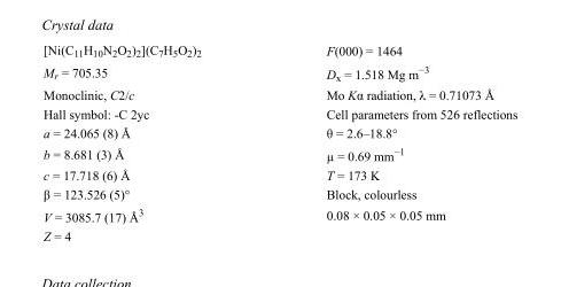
<table><tbody><tr><td>[Ni(C<sub>11</sub>H<sub>10</sub>N<sub>2</sub>O<sub>2</sub>)<sub>2</sub>](C<sub>7</sub>H<sub>5</sub>O<sub>2</sub>)<sub>2</sub></td><td>F(000) = 1464</td></tr><tr><td>M<sub>r</sub> = 705.35</td><td>D<sub>x</sub> = 1.518 Mg m<sup>−3</sup></td></tr><tr><td>Monoclinic, C2/c</td><td>Mo Kα radiation, λ = 0.71073 Å</td></tr><tr><td>Hall symbol: -C 2yc</td><td>Cell parameters from 526 reflections</td></tr><tr><td>a = 24.065 (8) Å</td><td>θ = 2.6–18.8°</td></tr><tr><td>b = 8.681 (3) Å</td><td>µ = 0.69 mm<sup>−1</sup></td></tr><tr><td>c = 17.718 (6) Å</td><td>T = 173 K</td></tr><tr><td>β = 123.526 (5)°</td><td>Block, colourless</td></tr><tr><td>V = 3085.7 (17) Å<sup>3</sup></td><td>0.08 × 0.05 × 0.05 mm</td></tr><tr><td>Z = 4</td><td></td></tr></tbody></table>